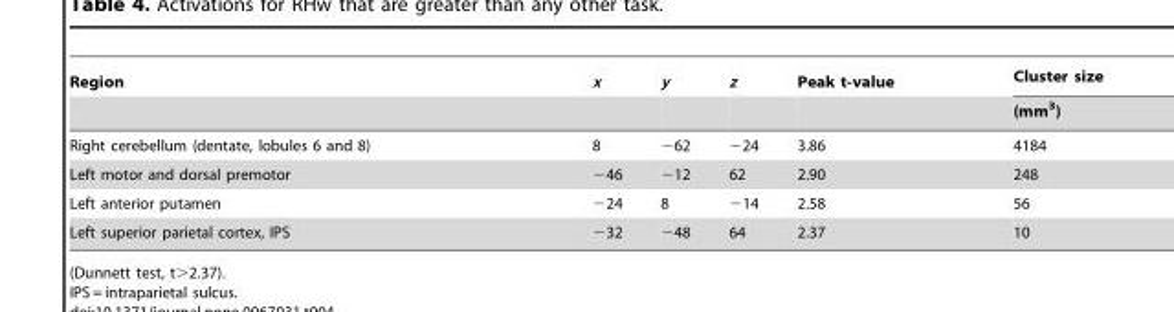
<table><thead><tr><td rowspan="2">Region</td><td rowspan="2">x</td><td rowspan="2">y</td><td rowspan="2">z</td><td rowspan="2">Peak t-value</td><td rowspan="2">Cluster size (mm<sup>3</sup>)</td></tr><tr></tr></thead><tbody><tr><td>Right cerebellum (dentate, lobules 6 and 8)</td><td>8</td><td>−62</td><td>−24</td><td>3.86</td><td>4184</td></tr><tr><td>Left motor and dorsal premotor</td><td>−46</td><td>−12</td><td>62</td><td>2.90</td><td>248</td></tr><tr><td>Left anterior putamen</td><td>−24</td><td>8</td><td>−14</td><td>2.58</td><td>56</td></tr><tr><td>Left superior parietal cortex, IPS</td><td>−32</td><td>−48</td><td>64</td><td>2.37</td><td>10</td></tr></tbody></table>